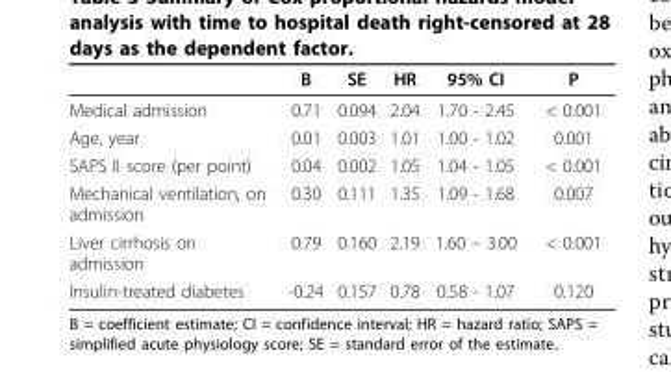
<table><thead><tr><td></td><td>B</td><td>SE</td><td>HR</td><td>95% CI</td><td>P</td></tr></thead><tbody><tr><td>Medical admission</td><td>0.71</td><td>0.094</td><td>2.04</td><td>1.70 - 2.45</td><td>&lt; 0.001</td></tr><tr><td>Age, year</td><td>0.01</td><td>0.003</td><td>1.01</td><td>1.00 - 1.02</td><td>0.001</td></tr><tr><td>SAPS II score (per point)</td><td>0.04</td><td>0.002</td><td>1.05</td><td>1.04 - 1.05</td><td>&lt; 0.001</td></tr><tr><td>Mechanical ventilation, on admission</td><td>0.30</td><td>0.111</td><td>1.35</td><td>1.09 - 1.68</td><td>0.007</td></tr><tr><td>Liver cirrhosis on admission</td><td>0.79</td><td>0.160</td><td>2.19</td><td>1.60 – 3.00</td><td>&lt; 0.001</td></tr><tr><td>Insulin-treated diabetes</td><td>-0.24</td><td>0.157</td><td>0.78</td><td>0.58 - 1.07</td><td>0.120</td></tr></tbody></table>